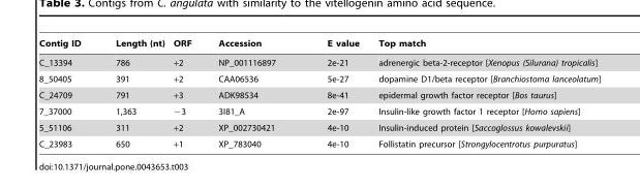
<table><thead><tr><td>Contig ID</td><td>Length (nt)</td><td>ORF</td><td>Accession</td><td>E value</td><td>Top match</td></tr></thead><tbody><tr><td>C_13394</td><td>786</td><td>+2</td><td>NP_001116897</td><td>2e-21</td><td>adrenergic beta-2-receptor [Xenopus (Silurana) tropicalis]</td></tr><tr><td>8_50405</td><td>391</td><td>+2</td><td>CAA06536</td><td>5e-27</td><td>dopamine D1/beta receptor [Branchiostoma lanceolatum]</td></tr><tr><td>C_24709</td><td>791</td><td>+3</td><td>ADK98534</td><td>8e-41</td><td>epidermal growth factor receptor [Bos taurus]</td></tr><tr><td>7_37000</td><td>1,363</td><td>−3</td><td>3I81_A</td><td>2e-97</td><td>Insulin-like growth factor 1 receptor [Homo sapiens]</td></tr><tr><td>5_51106</td><td>311</td><td>+2</td><td>XP_002730421</td><td>4e-10</td><td>Insulin-induced protein [Saccoglossus kowalevskii]</td></tr><tr><td>C_23983</td><td>650</td><td>+1</td><td>XP_783040</td><td>4e-10</td><td>Follistatin precursor [Strongylocentrotus purpuratus]</td></tr></tbody></table>